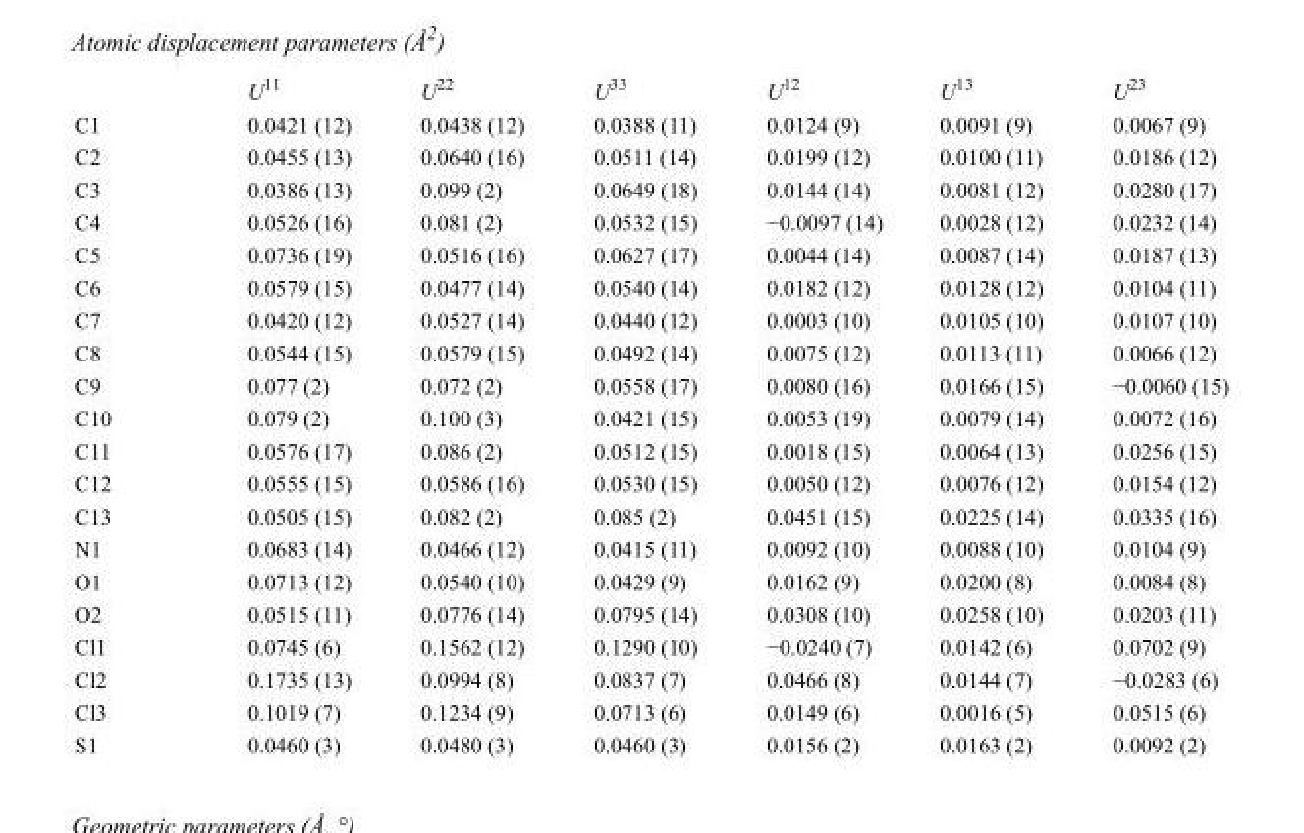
<table><thead><tr><td></td><td>U<sup>11</sup></td><td>U<sup>22</sup></td><td>U<sup>33</sup></td><td>U<sup>12</sup></td><td>U<sup>13</sup></td><td>U<sup>23</sup></td></tr></thead><tbody><tr><td>C1</td><td>0.0421 (12)</td><td>0.0438 (12)</td><td>0.0388 (11)</td><td>0.0124 (9)</td><td>0.0091 (9)</td><td>0.0067 (9)</td></tr><tr><td>C2</td><td>0.0455 (13)</td><td>0.0640 (16)</td><td>0.0511 (14)</td><td>0.0199 (12)</td><td>0.0100 (11)</td><td>0.0186 (12)</td></tr><tr><td>C3</td><td>0.0386 (13)</td><td>0.099 (2)</td><td>0.0649 (18)</td><td>0.0144 (14)</td><td>0.0081 (12)</td><td>0.0280 (17)</td></tr><tr><td>C4</td><td>0.0526 (16)</td><td>0.081 (2)</td><td>0.0532 (15)</td><td>−0.0097 (14)</td><td>0.0028 (12)</td><td>0.0232 (14)</td></tr><tr><td>C5</td><td>0.0736 (19)</td><td>0.0516 (16)</td><td>0.0627 (17)</td><td>0.0044 (14)</td><td>0.0087 (14)</td><td>0.0187 (13)</td></tr><tr><td>C6</td><td>0.0579 (15)</td><td>0.0477 (14)</td><td>0.0540 (14)</td><td>0.0182 (12)</td><td>0.0128 (12)</td><td>0.0104 (11)</td></tr><tr><td>C7</td><td>0.0420 (12)</td><td>0.0527 (14)</td><td>0.0440 (12)</td><td>0.0003 (10)</td><td>0.0105 (10)</td><td>0.0107 (10)</td></tr><tr><td>C8</td><td>0.0544 (15)</td><td>0.0579 (15)</td><td>0.0492 (14)</td><td>0.0075 (12)</td><td>0.0113 (11)</td><td>0.0066 (12)</td></tr><tr><td>C9</td><td>0.077 (2)</td><td>0.072 (2)</td><td>0.0558 (17)</td><td>0.0080 (16)</td><td>0.0166 (15)</td><td>−0.0060 (15)</td></tr><tr><td>C10</td><td>0.079 (2)</td><td>0.100 (3)</td><td>0.0421 (15)</td><td>0.0053 (19)</td><td>0.0079 (14)</td><td>0.0072 (16)</td></tr><tr><td>C11</td><td>0.0576 (17)</td><td>0.086 (2)</td><td>0.0512 (15)</td><td>0.0018 (15)</td><td>0.0064 (13)</td><td>0.0256 (15)</td></tr><tr><td>C12</td><td>0.0555 (15)</td><td>0.0586 (16)</td><td>0.0530 (15)</td><td>0.0050 (12)</td><td>0.0076 (12)</td><td>0.0154 (12)</td></tr><tr><td>C13</td><td>0.0505 (15)</td><td>0.082 (2)</td><td>0.085 (2)</td><td>0.0451 (15)</td><td>0.0225 (14)</td><td>0.0335 (16)</td></tr><tr><td>N1</td><td>0.0683 (14)</td><td>0.0466 (12)</td><td>0.0415 (11)</td><td>0.0092 (10)</td><td>0.0088 (10)</td><td>0.0104 (9)</td></tr><tr><td>O1</td><td>0.0713 (12)</td><td>0.0540 (10)</td><td>0.0429 (9)</td><td>0.0162 (9)</td><td>0.0200 (8)</td><td>0.0084 (8)</td></tr><tr><td>O2</td><td>0.0515 (11)</td><td>0.0776 (14)</td><td>0.0795 (14)</td><td>0.0308 (10)</td><td>0.0258 (10)</td><td>0.0203 (11)</td></tr><tr><td>Cl1</td><td>0.0745 (6)</td><td>0.1562 (12)</td><td>0.1290 (10)</td><td>−0.0240 (7)</td><td>0.0142 (6)</td><td>0.0702 (9)</td></tr><tr><td>Cl2</td><td>0.1735 (13)</td><td>0.0994 (8)</td><td>0.0837 (7)</td><td>0.0466 (8)</td><td>0.0144 (7)</td><td>−0.0283 (6)</td></tr><tr><td>Cl3</td><td>0.1019 (7)</td><td>0.1234 (9)</td><td>0.0713 (6)</td><td>0.0149 (6)</td><td>0.0016 (5)</td><td>0.0515 (6)</td></tr><tr><td>S1</td><td>0.0460 (3)</td><td>0.0480 (3)</td><td>0.0460 (3)</td><td>0.0156 (2)</td><td>0.0163 (2)</td><td>0.0092 (2)</td></tr></tbody></table>